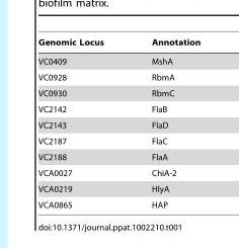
<table><thead><tr><td>Genomic Locus</td><td>Annotation</td></tr></thead><tbody><tr><td>VC0409</td><td>MshA</td></tr><tr><td>VC0928</td><td>RbmA</td></tr><tr><td>VC0930</td><td>RbmC</td></tr><tr><td>VC2142</td><td>FlaB</td></tr><tr><td>VC2143</td><td>FlaD</td></tr><tr><td>VC2187</td><td>FlaC</td></tr><tr><td>VC2188</td><td>FlaA</td></tr><tr><td>VCA0027</td><td>ChiA-2</td></tr><tr><td>VCA0219</td><td>HlyA</td></tr><tr><td>VCA0865</td><td>HAP</td></tr></tbody></table>